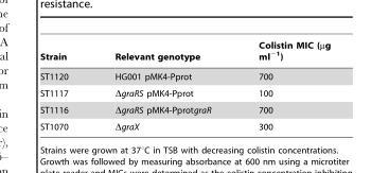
<table><thead><tr><td>Strain</td><td>Relevant genotype</td><td>Colistin MIC (µg ml<sup>−1</sup>)</td></tr></thead><tbody><tr><td>ST1120</td><td>HG001 pMK4-Pprot</td><td>700</td></tr><tr><td>ST1117</td><td>ΔgraRS pMK4-Pprot</td><td>100</td></tr><tr><td>ST1116</td><td>ΔgraRS pMK4-PprotgraR</td><td>700</td></tr><tr><td>ST1070</td><td>ΔgraX</td><td>300</td></tr></tbody></table>